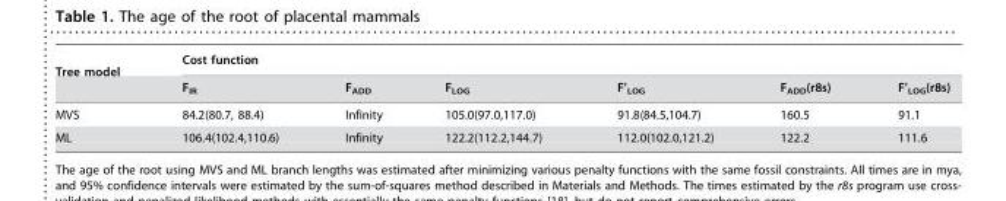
<table><thead><tr><td rowspan="2">Tree model</td><td colspan="6">Cost function</td></tr><tr><td>F<sub>IR</sub></td><td>F<sub>ADD</sub></td><td>F<sub>LOG</sub></td><td>F’<sub>LOG</sub></td><td>F<sub>ADD</sub>(r8s)</td><td>F’<sub>LOG</sub>(r8s)</td></tr></thead><tbody><tr><td>MVS</td><td>84.2(80.7, 88.4)</td><td>Infinity</td><td>105.0(97.0,117.0)</td><td>91.8(84.5,104.7)</td><td>160.5</td><td>91.1</td></tr><tr><td>ML</td><td>106.4(102.4,110.6)</td><td>Infinity</td><td>122.2(112.2,144.7)</td><td>112.0(102.0,121.2)</td><td>122.2</td><td>111.6</td></tr></tbody></table>